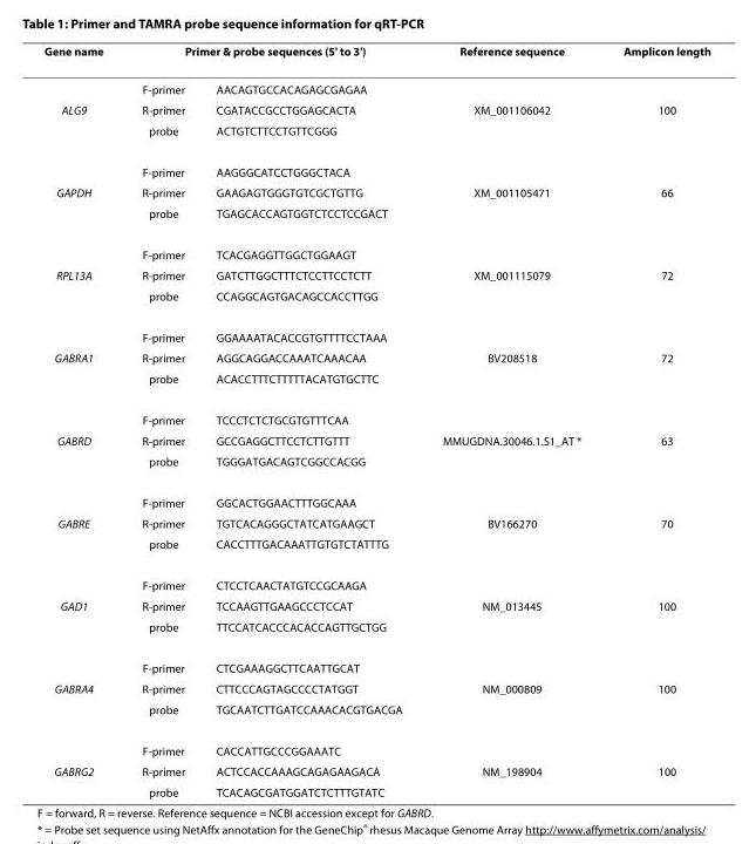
<table><thead><tr><td rowspan="2">Gene name</td><td colspan="2">Primer &amp; probe sequences (5&#x27; to 3&#x27;)</td><td rowspan="2">Reference sequence</td><td rowspan="2">Amplicon length</td></tr><tr><td>F-primer</td><td>AACAGTGCCACAGAGCGAGAA</td></tr></thead><tbody><tr><td rowspan="3">ALG9</td><td>R-primer</td><td>CGATACCGCCTGGAGCACTA</td><td>XM_001106042</td><td>100</td></tr><tr><td>probe</td><td>ACTGTCTTCCTGTTCGGG</td><td></td><td></td></tr><tr><td>F-primer</td><td>AAGGGCATCCTGGGCTACA</td><td></td><td></td></tr><tr><td rowspan="3">GAPDH</td><td>R-primer</td><td>GAAGAGTGGGTGTCGCTGTTG</td><td>XM_001105471</td><td>66</td></tr><tr><td>probe</td><td>TGAGCACCAGTGGTCTCCTCCGACT</td><td></td><td></td></tr><tr><td>F-primer</td><td>TCACGAGGTTGGCTGGAAGT</td><td></td><td></td></tr><tr><td rowspan="3">RPL13A</td><td>R-primer</td><td>GATCTTGGCTTTCTCCTTCCTCTT</td><td>XM_001115079</td><td>72</td></tr><tr><td>probe</td><td>CCAGGCAGTGACAGCCACCTTGG</td><td></td><td></td></tr><tr><td>F-primer</td><td>GGAAAATACACCGTGTTTTCCTAAA</td><td></td><td></td></tr><tr><td rowspan="3">GABRA1</td><td>R-primer</td><td>AGGCAGGACCAAATCAAACAA</td><td>BV208518</td><td>72</td></tr><tr><td>probe</td><td>ACACCTTTCTTTTTACATGTGCTTC</td><td></td><td></td></tr><tr><td>F-primer</td><td>TCCCTCTCTGCGTGTTTCAA</td><td></td><td></td></tr><tr><td rowspan="3">GABRD</td><td>R-primer</td><td>GCCGAGGCTTCCTCTTGTTT</td><td>MMUGDNA.30046.1.S1_AT *</td><td>63</td></tr><tr><td>probe</td><td>TGGGATGACAGTCGGCCACGG</td><td></td><td></td></tr><tr><td>F-primer</td><td>GGCACTGGAACTTTGGCAAA</td><td></td><td></td></tr><tr><td rowspan="3">GABRE</td><td>R-primer</td><td>TGTCACAGGGCTATCATGAAGCT</td><td>BV166270</td><td>70</td></tr><tr><td>probe</td><td>CACCTTTGACAAATTGTGTCTATTTG</td><td></td><td></td></tr><tr><td>F-primer</td><td>CTCCTCAACTATGTCCGCAAGA</td><td></td><td></td></tr><tr><td rowspan="3">GAD1</td><td>R-primer</td><td>TCCAAGTTGAAGCCCTCCAT</td><td>NM_013445</td><td>100</td></tr><tr><td>probe</td><td>TTCCATCACCCACACCAGTTGCTGG</td><td></td><td></td></tr><tr><td>F-primer</td><td>CTCGAAAGGCTTCAATTGCAT</td><td></td><td></td></tr><tr><td rowspan="3">GABRA4</td><td>R-primer</td><td>CTTCCCAGTAGCCCCTATGGT</td><td>NM_000809</td><td>100</td></tr><tr><td>probe</td><td>TGCAATCTTGATCCAAACACGTGACGA</td><td></td><td></td></tr><tr><td>F-primer</td><td>CACCATTGCCCGGAAATC</td><td></td><td></td></tr><tr><td rowspan="2">GABRG2</td><td>R-primer</td><td>ACTCCACCAAAGCAGAGAAGACA</td><td>NM_198904</td><td>100</td></tr><tr><td>probe</td><td>TCACAGCGATGGATCTCTTTGTATC</td><td></td><td></td></tr></tbody></table>